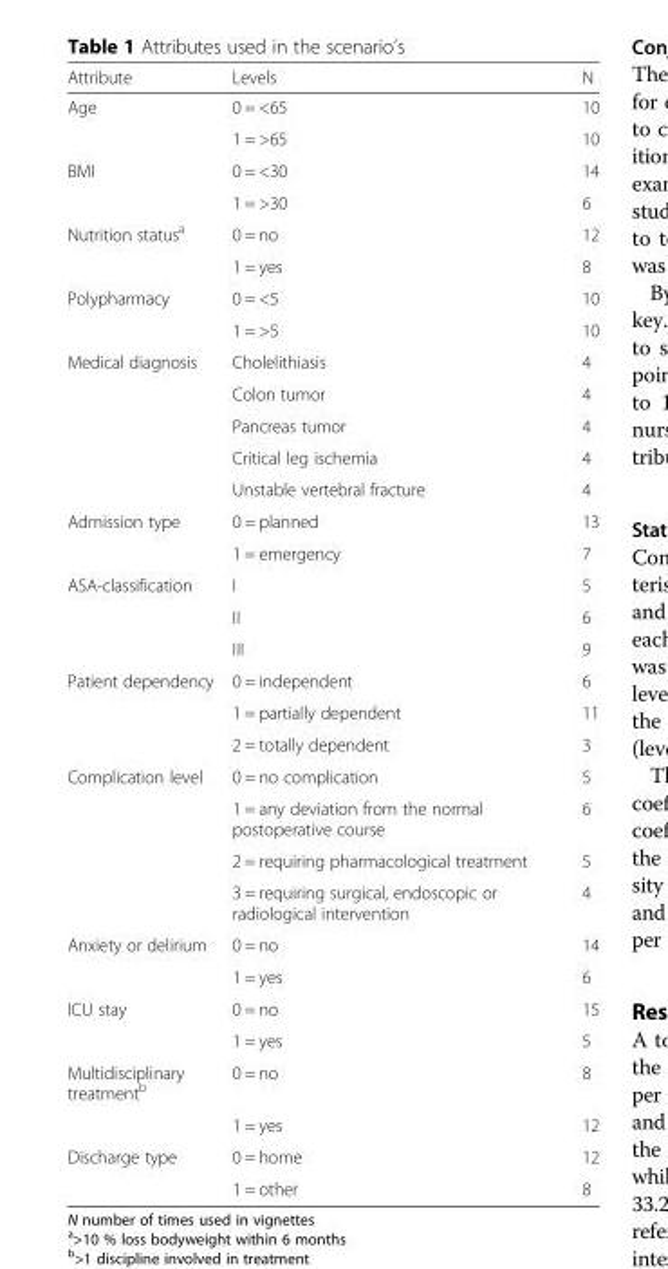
<table><thead><tr><td>Attribute</td><td>Levels</td><td>N</td></tr></thead><tbody><tr><td rowspan="2">Age</td><td>0 = &lt;65</td><td>10</td></tr><tr><td>1 = &gt;65</td><td>10</td></tr><tr><td rowspan="2">BMI</td><td>0 = &lt;30</td><td>14</td></tr><tr><td>1 = &gt;30</td><td>6</td></tr><tr><td rowspan="2">Nutrition status<sup>a</sup></td><td>0 = no</td><td>12</td></tr><tr><td>1 = yes</td><td>8</td></tr><tr><td rowspan="2">Polypharmacy</td><td>0 = &lt;5</td><td>10</td></tr><tr><td>1 = &gt;5</td><td>10</td></tr><tr><td rowspan="5">Medical diagnosis</td><td>Cholelithiasis</td><td>4</td></tr><tr><td>Colon tumor</td><td>4</td></tr><tr><td>Pancreas tumor</td><td>4</td></tr><tr><td>Critical leg ischemia</td><td>4</td></tr><tr><td>Unstable vertebral fracture</td><td>4</td></tr><tr><td rowspan="2">Admission type</td><td>0 = planned</td><td>13</td></tr><tr><td>1 = emergency</td><td>7</td></tr><tr><td rowspan="3">ASA-classification</td><td>I</td><td>5</td></tr><tr><td>II</td><td>6</td></tr><tr><td>III</td><td>9</td></tr><tr><td rowspan="3">Patient dependency</td><td>0 = independent</td><td>6</td></tr><tr><td>1 = partially dependent</td><td>11</td></tr><tr><td>2 = totally dependent</td><td>3</td></tr><tr><td rowspan="4">Complication level</td><td>0 = no complication</td><td>5</td></tr><tr><td>1 = any deviation from the normal postoperative course</td><td>6</td></tr><tr><td>2 = requiring pharmacological treatment</td><td>5</td></tr><tr><td>3 = requiring surgical, endoscopic or radiological intervention</td><td>4</td></tr><tr><td rowspan="2">Anxiety or delirium</td><td>0 = no</td><td>14</td></tr><tr><td>1 = yes</td><td>6</td></tr><tr><td rowspan="2">ICU stay</td><td>0 = no</td><td>15</td></tr><tr><td>1 = yes</td><td>5</td></tr><tr><td rowspan="2">Multidisciplinary treatment<sup>b</sup></td><td>0 = no</td><td>8</td></tr><tr><td>1 = yes</td><td>12</td></tr><tr><td rowspan="2">Discharge type</td><td>0 = home</td><td>12</td></tr><tr><td>1 = other</td><td>8</td></tr></tbody></table>